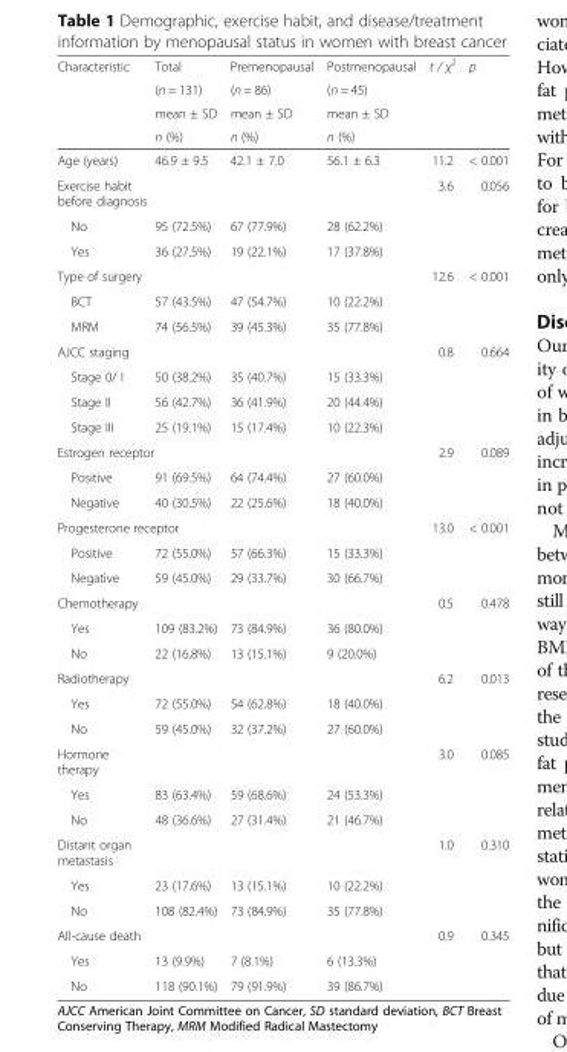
<table><thead><tr><td rowspan="4">Characteristic</td><td rowspan="4">Total (n = 131) mean ± SD n (%)</td><td rowspan="4">Premenopausal (n = 86) mean ± SD n (%)</td><td rowspan="4">Postmenopausal (n = 45) mean ± SD n (%)</td><td rowspan="4">t / χ<sup>2</sup></td><td rowspan="4">p</td></tr><tr></tr><tr></tr><tr></tr></thead><tbody><tr><td>Age (years)</td><td>46.9 ± 9.5</td><td>42.1 ± 7.0</td><td>56.1 ± 6.3</td><td>11.2</td><td>&lt; 0.001</td></tr><tr><td colspan="2">Exercise habit before diagnosis</td><td></td><td></td><td>3.6</td><td>0.056</td></tr><tr><td>No</td><td>95 (72.5%)</td><td>67 (77.9%)</td><td>28 (62.2%)</td><td></td><td></td></tr><tr><td>Yes</td><td>36 (27.5%)</td><td>19 (22.1%)</td><td>17 (37.8%)</td><td></td><td></td></tr><tr><td>Type of surgery</td><td></td><td></td><td></td><td>12.6</td><td>&lt; 0.001</td></tr><tr><td>BCT</td><td>57 (43.5%)</td><td>47 (54.7%)</td><td>10 (22.2%)</td><td></td><td></td></tr><tr><td>MRM</td><td>74 (56.5%)</td><td>39 (45.3%)</td><td>35 (77.8%)</td><td></td><td></td></tr><tr><td>AJCC staging</td><td></td><td></td><td></td><td>0.8</td><td>0.664</td></tr><tr><td>Stage 0/ I</td><td>50 (38.2%)</td><td>35 (40.7%)</td><td>15 (33.3%)</td><td></td><td></td></tr><tr><td>Stage II</td><td>56 (42.7%)</td><td>36 (41.9%)</td><td>20 (44.4%)</td><td></td><td></td></tr><tr><td>Stage III</td><td>25 (19.1%)</td><td>15 (17.4%)</td><td>10 (22.3%)</td><td></td><td></td></tr><tr><td colspan="2">Estrogen receptor</td><td></td><td></td><td>2.9</td><td>0.089</td></tr><tr><td>Positive</td><td>91 (69.5%)</td><td>64 (74.4%)</td><td>27 (60.0%)</td><td></td><td></td></tr><tr><td>Negative</td><td>40 (30.5%)</td><td>22 (25.6%)</td><td>18 (40.0%)</td><td></td><td></td></tr><tr><td colspan="2">Progesterone receptor</td><td></td><td></td><td>13.0</td><td>&lt; 0.001</td></tr><tr><td>Positive</td><td>72 (55.0%)</td><td>57 (66.3%)</td><td>15 (33.3%)</td><td></td><td></td></tr><tr><td>Negative</td><td>59 (45.0%)</td><td>29 (33.7%)</td><td>30 (66.7%)</td><td></td><td></td></tr><tr><td>Chemotherapy</td><td></td><td></td><td></td><td>0.5</td><td>0.478</td></tr><tr><td>Yes</td><td>109 (83.2%)</td><td>73 (84.9%)</td><td>36 (80.0%)</td><td></td><td></td></tr><tr><td>No</td><td>22 (16.8%)</td><td>13 (15.1%)</td><td>9 (20.0%)</td><td></td><td></td></tr><tr><td>Radiotherapy</td><td></td><td></td><td></td><td>6.2</td><td>0.013</td></tr><tr><td>Yes</td><td>72 (55.0%)</td><td>54 (62.8%)</td><td>18 (40.0%)</td><td></td><td></td></tr><tr><td>No</td><td>59 (45.0%)</td><td>32 (37.2%)</td><td>27 (60.0%)</td><td></td><td></td></tr><tr><td colspan="2">Hormone therapy</td><td></td><td></td><td>3.0</td><td>0.085</td></tr><tr><td>Yes</td><td>83 (63.4%)</td><td>59 (68.6%)</td><td>24 (53.3%)</td><td></td><td></td></tr><tr><td>No</td><td>48 (36.6%)</td><td>27 (31.4%)</td><td>21 (46.7%)</td><td></td><td></td></tr><tr><td colspan="2">Distant organ metastasis</td><td></td><td></td><td>1.0</td><td>0.310</td></tr><tr><td>Yes</td><td>23 (17.6%)</td><td>13 (15.1%)</td><td>10 (22.2%)</td><td></td><td></td></tr><tr><td>No</td><td>108 (82.4%)</td><td>73 (84.9%)</td><td>35 (77.8%)</td><td></td><td></td></tr><tr><td>All-cause death</td><td></td><td></td><td></td><td>0.9</td><td>0.345</td></tr><tr><td>Yes</td><td>13 (9.9%)</td><td>7 (8.1%)</td><td>6 (13.3%)</td><td></td><td></td></tr><tr><td>No</td><td>118 (90.1%)</td><td>79 (91.9%)</td><td>39 (86.7%)</td><td></td><td></td></tr></tbody></table>